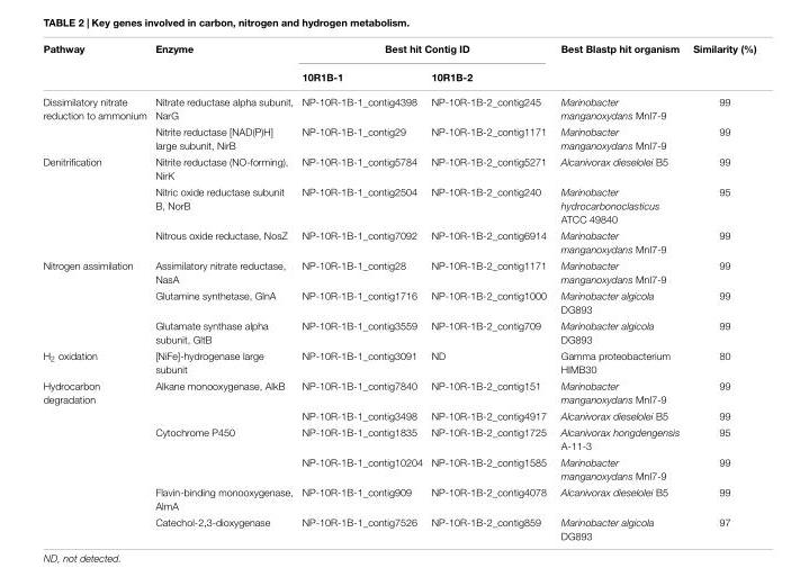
<table><thead><tr><td rowspan="2">Pathway</td><td rowspan="2">Enzyme</td><td colspan="2">Best hit Contig ID</td><td rowspan="2">Best Blastp hit organism</td><td rowspan="2">Similarity (%)</td></tr><tr><td>10R1B-1</td><td>10R1B-2</td></tr></thead><tbody><tr><td rowspan="2">Dissimilatory nitrate reduction to ammonium</td><td>Nitrate reductase alpha subunit, NarG</td><td>NP-10R-1B-1_contig4398</td><td>NP-10R-1B-2_contig245</td><td>Marinobacter manganoxydans MnI7-9</td><td>99</td></tr><tr><td>Nitrite reductase [NAD(P)H] large subunit, NirB</td><td>NP-10R-1B-1_contig29</td><td>NP-10R-1B-2_contig1171</td><td>Marinobacter manganoxydans MnI7-9</td><td>99</td></tr><tr><td rowspan="3">Denitrification</td><td>Nitrite reductase (NO-forming), NirK</td><td>NP-10R-1B-1_contig5784</td><td>NP-10R-1B-2_contig5271</td><td>Alcanivorax dieselolei B5</td><td>99</td></tr><tr><td>Nitric oxide reductase subunit B, NorB</td><td>NP-10R-1B-1_contig2504</td><td>NP-10R-1B-2_contig240</td><td>Marinobacter hydrocarbonoclasticus ATCC 49840</td><td>95</td></tr><tr><td>Nitrous oxide reductase, NosZ</td><td>NP-10R-1B-1_contig7092</td><td>NP-10R-1B-2_contig6914</td><td>Marinobacter manganoxydans MnI7-9</td><td>99</td></tr><tr><td rowspan="3">Nitrogen assimilation</td><td>Assimilatory nitrate reductase, NasA</td><td>NP-10R-1B-1_contig28</td><td>NP-10R-1B-2_contig1171</td><td>Marinobacter manganoxydans MnI7-9</td><td>99</td></tr><tr><td>Glutamine synthetase, GlnA</td><td>NP-10R-1B-1_contig1716</td><td>NP-10R-1B-2_contig1000</td><td>Marinobacter algicola DG893</td><td>99</td></tr><tr><td>Glutamate synthase alpha subunit, GltB</td><td>NP-10R-1B-1_contig3559</td><td>NP-10R-1B-2_contig709</td><td>Marinobacter algicola DG893</td><td>99</td></tr><tr><td>H<sub>2</sub> oxidation</td><td>[NiFe]-hydrogenase large subunit</td><td>NP-10R-1B-1_contig3091</td><td>ND</td><td>Gamma proteobacterium HIMB30</td><td>80</td></tr><tr><td rowspan="6">Hydrocarbon degradation</td><td>Alkane monooxygenase, AlkB</td><td>NP-10R-1B-1_contig7840</td><td>NP-10R-1B-2_contig151</td><td>Marinobacter manganoxydans MnI7-9</td><td>99</td></tr><tr><td></td><td>NP-10R-1B-1_contig3498</td><td>NP-10R-1B-2_contig4917</td><td>Alcanivorax dieselolei B5</td><td>99</td></tr><tr><td>Cytochrome P450</td><td>NP-10R-1B-1_contig1835</td><td>NP-10R-1B-2_contig1725</td><td>Alcanivorax hongdengensis A-11-3</td><td>95</td></tr><tr><td></td><td>NP-10R-1B-1_contig10204</td><td>NP-10R-1B-2_contig1585</td><td>Marinobacter manganoxydans MnI7-9</td><td>99</td></tr><tr><td>Flavin-binding monooxygenase, AlmA</td><td>NP-10R-1B-1_contig909</td><td>NP-10R-1B-2_contig4078</td><td>Alcanivorax dieselolei B5</td><td>99</td></tr><tr><td>Catechol-2,3-dioxygenase</td><td>NP-10R-1B-1_contig7526</td><td>NP-10R-1B-2_contig859</td><td>Marinobacter algicola DG893</td><td>97</td></tr></tbody></table>